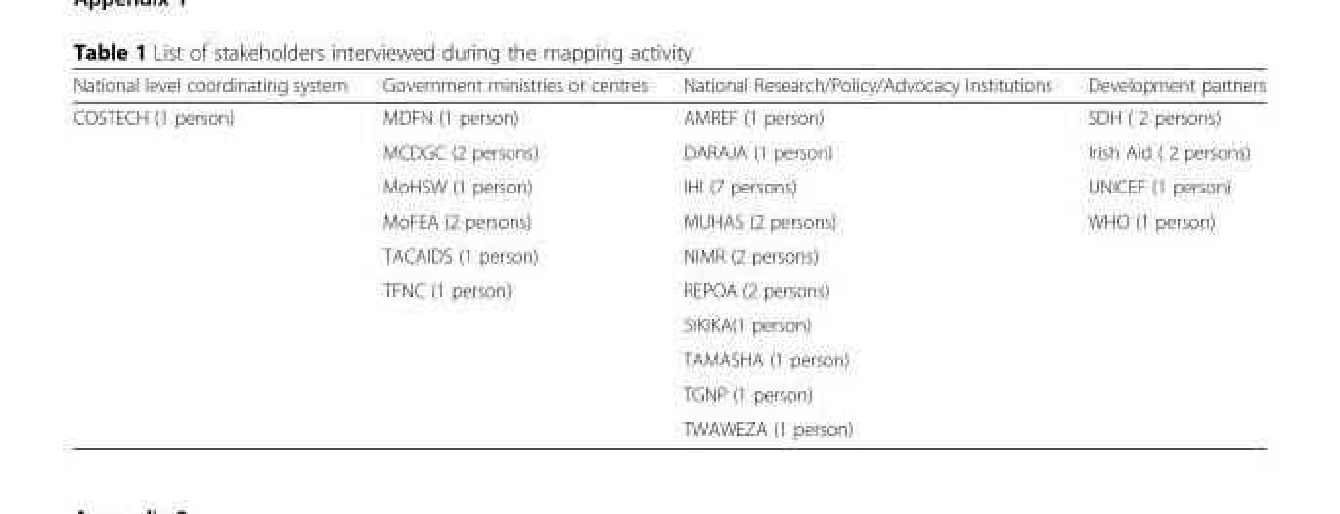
<table><thead><tr><td>National level coordinating system</td><td>Government ministries or centres</td><td>National Research/Policy/Advocacy Institutions</td><td>Development partners</td></tr></thead><tbody><tr><td rowspan="10">COSTECH (1 person)</td><td>MDFN (1 person)</td><td>AMREF (1 person)</td><td>SDH ( 2 persons)</td></tr><tr><td>MCDGC (2 persons)</td><td>DARAJA (1 person)</td><td>Irish Aid ( 2 persons)</td></tr><tr><td>MoHSW (1 person)</td><td>IHI (7 persons)</td><td>UNICEF (1 person)</td></tr><tr><td>MoFEA (2 persons)</td><td>MUHAS (2 persons)</td><td>WHO (1 person)</td></tr><tr><td>TACAIDS (1 person)</td><td>NIMR (2 persons)</td><td></td></tr><tr><td>TFNC (1 person)</td><td>REPOA (2 persons)</td><td></td></tr><tr><td></td><td>SIKIKA(1 person)</td><td></td></tr><tr><td></td><td>TAMASHA (1 person)</td><td></td></tr><tr><td></td><td>TGNP (1 person)</td><td></td></tr><tr><td></td><td>TWAWEZA (1 person)</td><td></td></tr></tbody></table>